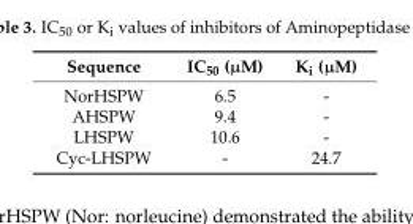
<table><thead><tr><td>Sequence</td><td>IC<sub>50</sub> (µM)</td><td>K<sub>i</sub> (µM)</td></tr></thead><tbody><tr><td>NorHSPW</td><td>6.5</td><td>-</td></tr><tr><td>AHSPW</td><td>9.4</td><td>-</td></tr><tr><td>LHSPW</td><td>10.6</td><td>-</td></tr><tr><td>Cyc-LHSPW</td><td>-</td><td>24.7</td></tr></tbody></table>